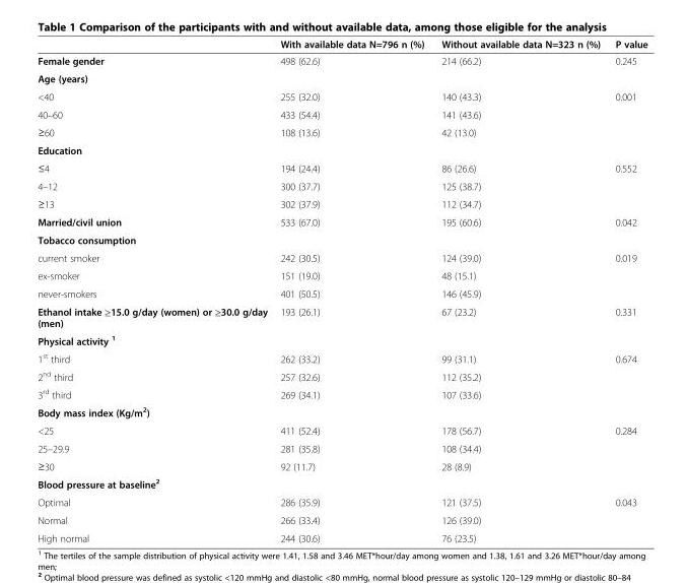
<table><thead><tr><td></td><td>With available data N=796 n (%)</td><td>Without available data N=323 n (%)</td><td>P value</td></tr></thead><tbody><tr><td>Female gender</td><td>498 (62.6)</td><td>214 (66.2)</td><td>0.245</td></tr><tr><td colspan="4">Age (years)</td></tr><tr><td>&lt;40</td><td>255 (32.0)</td><td>140 (43.3)</td><td>0.001</td></tr><tr><td>40–60</td><td>433 (54.4)</td><td>141 (43.6)</td><td></td></tr><tr><td>≥60</td><td>108 (13.6)</td><td>42 (13.0)</td><td></td></tr><tr><td colspan="4">Education</td></tr><tr><td>≤4</td><td>194 (24.4)</td><td>86 (26.6)</td><td>0.552</td></tr><tr><td>4–12</td><td>300 (37.7)</td><td>125 (38.7)</td><td></td></tr><tr><td>≥13</td><td>302 (37.9)</td><td>112 (34.7)</td><td></td></tr><tr><td>Married/civil union</td><td>533 (67.0)</td><td>195 (60.6)</td><td>0.042</td></tr><tr><td colspan="4">Tobacco consumption</td></tr><tr><td>current smoker</td><td>242 (30.5)</td><td>124 (39.0)</td><td>0.019</td></tr><tr><td>ex-smoker</td><td>151 (19.0)</td><td>48 (15.1)</td><td></td></tr><tr><td>never-smokers</td><td>401 (50.5)</td><td>146 (45.9)</td><td></td></tr><tr><td>Ethanol intake ≥15.0 g/day (women) or ≥30.0 g/day (men)</td><td>193 (26.1)</td><td>67 (23.2)</td><td>0.331</td></tr><tr><td colspan="4">Physical activity <sup>1</sup></td></tr><tr><td>1<sup>st</sup> third</td><td>262 (33.2)</td><td>99 (31.1)</td><td>0.674</td></tr><tr><td>2<sup>nd</sup> third</td><td>257 (32.6)</td><td>112 (35.2)</td><td></td></tr><tr><td>3<sup>rd</sup> third</td><td>269 (34.1)</td><td>107 (33.6)</td><td></td></tr><tr><td colspan="4">Body mass index (Kg/m<sup>2</sup>)</td></tr><tr><td>&lt;25</td><td>411 (52.4)</td><td>178 (56.7)</td><td>0.284</td></tr><tr><td>25–29.9</td><td>281 (35.8)</td><td>108 (34.4)</td><td></td></tr><tr><td>≥30</td><td>92 (11.7)</td><td>28 (8.9)</td><td></td></tr><tr><td colspan="4">Blood pressure at baseline<sup>2</sup></td></tr><tr><td>Optimal</td><td>286 (35.9)</td><td>121 (37.5)</td><td>0.043</td></tr><tr><td>Normal</td><td>266 (33.4)</td><td>126 (39.0)</td><td></td></tr><tr><td>High normal</td><td>244 (30.6)</td><td>76 (23.5)</td><td></td></tr></tbody></table>